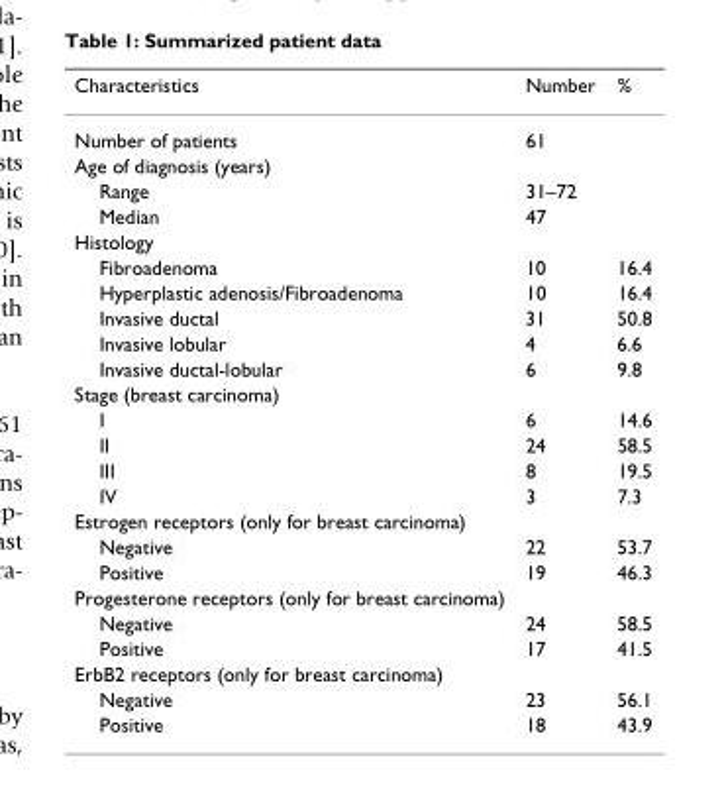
<table><thead><tr><td>Characteristics</td><td>Number</td><td>%</td></tr></thead><tbody><tr><td>Number of patients</td><td>61</td><td></td></tr><tr><td colspan="3">Age of diagnosis (years)</td></tr><tr><td>Range</td><td>31–72</td><td></td></tr><tr><td>Median</td><td>47</td><td></td></tr><tr><td colspan="3">Histology</td></tr><tr><td>Fibroadenoma</td><td>10</td><td>16.4</td></tr><tr><td>Hyperplastic adenosis/Fibroadenoma</td><td>10</td><td>16.4</td></tr><tr><td>Invasive ductal</td><td>31</td><td>50.8</td></tr><tr><td>Invasive lobular</td><td>4</td><td>6.6</td></tr><tr><td>Invasive ductal-lobular</td><td>6</td><td>9.8</td></tr><tr><td colspan="3">Stage (breast carcinoma)</td></tr><tr><td>I</td><td>6</td><td>14.6</td></tr><tr><td>II</td><td>24</td><td>58.5</td></tr><tr><td>III</td><td>8</td><td>19.5</td></tr><tr><td>IV</td><td>3</td><td>7.3</td></tr><tr><td colspan="3">Estrogen receptors (only for breast carcinoma)</td></tr><tr><td>Negative</td><td>22</td><td>53.7</td></tr><tr><td>Positive</td><td>19</td><td>46.3</td></tr><tr><td colspan="3">Progesterone receptors (only for breast carcinoma)</td></tr><tr><td>Negative</td><td>24</td><td>58.5</td></tr><tr><td>Positive</td><td>17</td><td>41.5</td></tr><tr><td colspan="3">ErbB2 receptors (only for breast carcinoma)</td></tr><tr><td>Negative</td><td>23</td><td>56.1</td></tr><tr><td>Positive</td><td>18</td><td>43.9</td></tr></tbody></table>